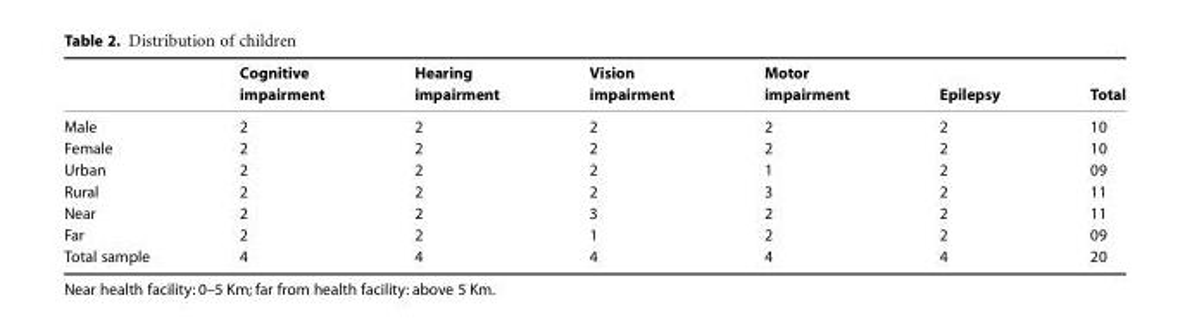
<table><thead><tr><td></td><td>Cognitive impairment</td><td>Hearing impairment</td><td>Vision impairment</td><td>Motor impairment</td><td>Epilepsy</td><td>Total</td></tr></thead><tbody><tr><td>Male</td><td>2</td><td>2</td><td>2</td><td>2</td><td>2</td><td>10</td></tr><tr><td>Female</td><td>2</td><td>2</td><td>2</td><td>2</td><td>2</td><td>10</td></tr><tr><td>Urban</td><td>2</td><td>2</td><td>2</td><td>1</td><td>2</td><td>09</td></tr><tr><td>Rural</td><td>2</td><td>2</td><td>2</td><td>3</td><td>2</td><td>11</td></tr><tr><td>Near</td><td>2</td><td>2</td><td>3</td><td>2</td><td>2</td><td>11</td></tr><tr><td>Far</td><td>2</td><td>2</td><td>1</td><td>2</td><td>2</td><td>09</td></tr><tr><td>Total sample</td><td>4</td><td>4</td><td>4</td><td>4</td><td>4</td><td>20</td></tr></tbody></table>